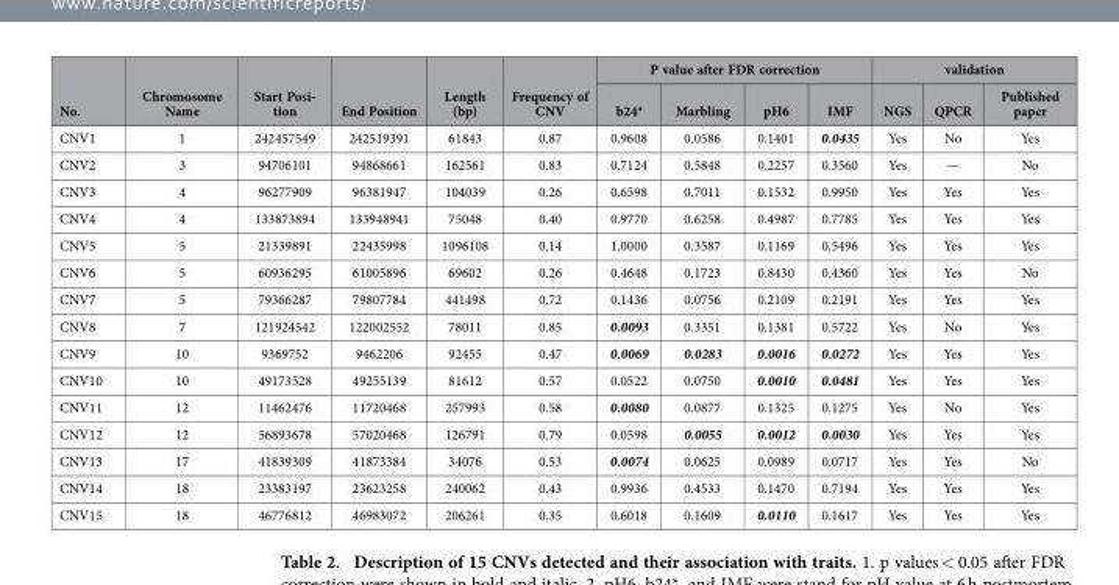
<table><thead><tr><td rowspan="2">No.</td><td rowspan="2">Chromosome Name</td><td rowspan="2">Start Posi- tion</td><td rowspan="2">End Position</td><td rowspan="2">Length (bp)</td><td rowspan="2">Frequency of CNV</td><td colspan="4">P value after FDR correction</td><td colspan="3">validation</td></tr><tr><td>b24*</td><td>Marbling</td><td>pH6</td><td>IMF</td><td>NGS</td><td>QPCR</td><td>Published paper</td></tr></thead><tbody><tr><td>CNV1</td><td>1</td><td>242457549</td><td>242519391</td><td>61843</td><td>0.87</td><td>0.9608</td><td>0.0586</td><td>0.1401</td><td>0.0435</td><td>Yes</td><td>No</td><td>Yes</td></tr><tr><td>CNV2</td><td>3</td><td>94706101</td><td>94868661</td><td>162561</td><td>0.83</td><td>0.7124</td><td>0.5848</td><td>0.2257</td><td>0.3560</td><td>Yes</td><td>—</td><td>No</td></tr><tr><td>CNV3</td><td>4</td><td>96277909</td><td>96381947</td><td>104039</td><td>0.26</td><td>0.6598</td><td>0.7011</td><td>0.1532</td><td>0.9950</td><td>Yes</td><td>Yes</td><td>Yes</td></tr><tr><td>CNV4</td><td>4</td><td>133873894</td><td>133948941</td><td>75048</td><td>0.40</td><td>0.9770</td><td>0.6258</td><td>0.4987</td><td>0.7785</td><td>Yes</td><td>Yes</td><td>Yes</td></tr><tr><td>CNV5</td><td>5</td><td>21339891</td><td>22435998</td><td>1096108</td><td>0.14</td><td>1.0000</td><td>0.3587</td><td>0.1169</td><td>0.5496</td><td>Yes</td><td>Yes</td><td>Yes</td></tr><tr><td>CNV6</td><td>5</td><td>60936295</td><td>61005896</td><td>69602</td><td>0.26</td><td>0.4648</td><td>0.1723</td><td>0.8430</td><td>0.4360</td><td>Yes</td><td>Yes</td><td>No</td></tr><tr><td>CNV7</td><td>5</td><td>79366287</td><td>79807784</td><td>441498</td><td>0.72</td><td>0.1436</td><td>0.0756</td><td>0.2109</td><td>0.2191</td><td>Yes</td><td>Yes</td><td>Yes</td></tr><tr><td>CNV8</td><td>7</td><td>121924542</td><td>122002552</td><td>78011</td><td>0.85</td><td>0.0093</td><td>0.3351</td><td>0.1381</td><td>0.5722</td><td>Yes</td><td>No</td><td>Yes</td></tr><tr><td>CNV9</td><td>10</td><td>9369752</td><td>9462206</td><td>92455</td><td>0.47</td><td>0.0069</td><td>0.0283</td><td>0.0016</td><td>0.0272</td><td>Yes</td><td>Yes</td><td>Yes</td></tr><tr><td>CNV10</td><td>10</td><td>49173528</td><td>49255139</td><td>81612</td><td>0.57</td><td>0.0522</td><td>0.0750</td><td>0.0010</td><td>0.0481</td><td>Yes</td><td>Yes</td><td>Yes</td></tr><tr><td>CNV11</td><td>12</td><td>11462476</td><td>11720468</td><td>257993</td><td>0.58</td><td>0.0080</td><td>0.0877</td><td>0.1325</td><td>0.1275</td><td>Yes</td><td>No</td><td>Yes</td></tr><tr><td>CNV12</td><td>12</td><td>56893678</td><td>57020468</td><td>126791</td><td>0.79</td><td>0.0598</td><td>0.0055</td><td>0.0012</td><td>0.0030</td><td>Yes</td><td>Yes</td><td>Yes</td></tr><tr><td>CNV13</td><td>17</td><td>41839309</td><td>41873384</td><td>34076</td><td>0.53</td><td>0.0074</td><td>0.0625</td><td>0.0989</td><td>0.0717</td><td>Yes</td><td>Yes</td><td>No</td></tr><tr><td>CNV14</td><td>18</td><td>23383197</td><td>23623258</td><td>240062</td><td>0.43</td><td>0.9936</td><td>0.4533</td><td>0.1470</td><td>0.7194</td><td>Yes</td><td>Yes</td><td>Yes</td></tr><tr><td>CNV15</td><td>18</td><td>46776812</td><td>46983072</td><td>206261</td><td>0.35</td><td>0.6018</td><td>0.1609</td><td>0.0110</td><td>0.1617</td><td>Yes</td><td>Yes</td><td>Yes</td></tr></tbody></table>